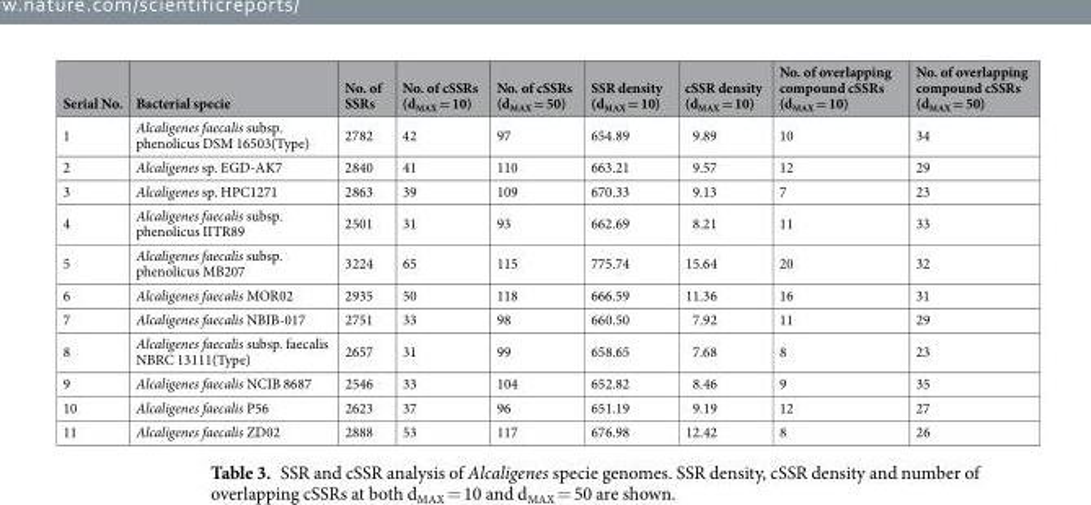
<table><thead><tr><td>Serial No.</td><td>Bacterial specie</td><td>No. of SSRs</td><td>No. of cSSRs (d<sub>MAX</sub> = 10)</td><td>No. of cSSRs (d<sub>MAX</sub> = 50)</td><td>SSR density (d<sub>MAX</sub> = 10)</td><td>cSSR density (d<sub>MAX</sub> = 10)</td><td>No. of overlapping compound cSSRs (d<sub>MAX</sub> = 10)</td><td>No. of overlapping compound cSSRs (d<sub>MAX</sub> = 50)</td></tr></thead><tbody><tr><td>1</td><td>Alcaligenes faecalis subsp. phenolicus DSM 16503(Type)</td><td>2782</td><td>42</td><td>97</td><td>654.89</td><td>9.89</td><td>10</td><td>34</td></tr><tr><td>2</td><td>Alcaligenes sp. EGD-AK7</td><td>2840</td><td>41</td><td>110</td><td>663.21</td><td>9.57</td><td>12</td><td>29</td></tr><tr><td>3</td><td>Alcaligenes sp. HPC1271</td><td>2863</td><td>39</td><td>109</td><td>670.33</td><td>9.13</td><td>7</td><td>23</td></tr><tr><td>4</td><td>Alcaligenes faecalis subsp. phenolicus IITR89</td><td>2501</td><td>31</td><td>93</td><td>662.69</td><td>8.21</td><td>11</td><td>33</td></tr><tr><td>5</td><td>Alcaligenes faecalis subsp. phenolicus MB207</td><td>3224</td><td>65</td><td>115</td><td>775.74</td><td>15.64</td><td>20</td><td>32</td></tr><tr><td>6</td><td>Alcaligenes faecalis MOR02</td><td>2935</td><td>50</td><td>118</td><td>666.59</td><td>11.36</td><td>16</td><td>31</td></tr><tr><td>7</td><td>Alcaligenes faecalis NBIB-017</td><td>2751</td><td>33</td><td>98</td><td>660.50</td><td>7.92</td><td>11</td><td>29</td></tr><tr><td>8</td><td>Alcaligenes faecalis subsp. faecalis NBRC 13111(Type)</td><td>2657</td><td>31</td><td>99</td><td>658.65</td><td>7.68</td><td>8</td><td>23</td></tr><tr><td>9</td><td>Alcaligenes faecalis NCIB 8687</td><td>2546</td><td>33</td><td>104</td><td>652.82</td><td>8.46</td><td>9</td><td>35</td></tr><tr><td>10</td><td>Alcaligenes faecalis P56</td><td>2623</td><td>37</td><td>96</td><td>651.19</td><td>9.19</td><td>12</td><td>27</td></tr><tr><td>11</td><td>Alcaligenes faecalis ZD02</td><td>2888</td><td>53</td><td>117</td><td>676.98</td><td>12.42</td><td>8</td><td>26</td></tr></tbody></table>